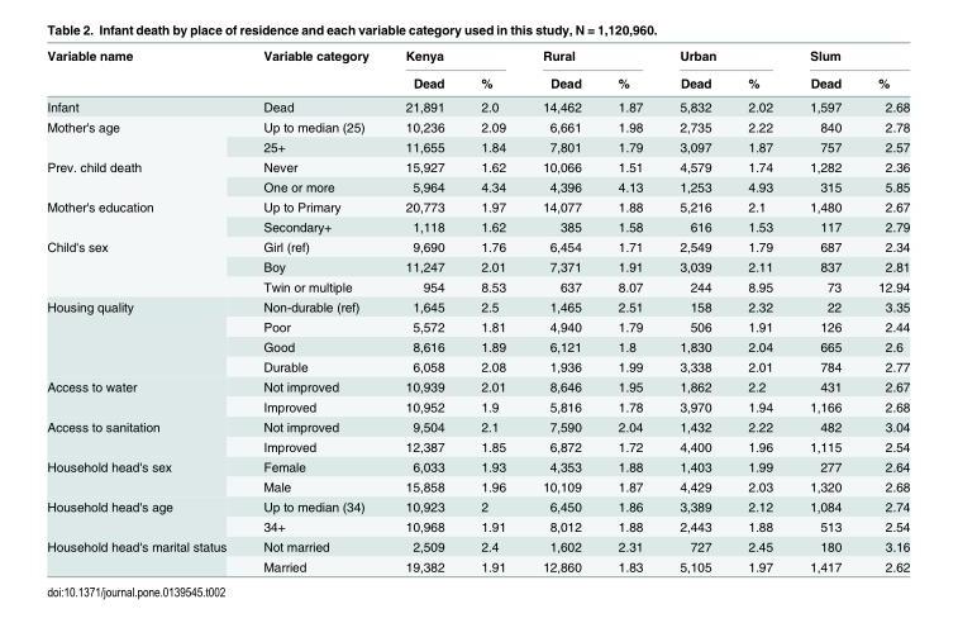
<table><thead><tr><td rowspan="2">Variable name</td><td rowspan="2">Variable category</td><td colspan="2">Kenya</td><td colspan="2">Rural</td><td colspan="2">Urban</td><td colspan="2">Slum</td></tr><tr><td>Dead</td><td>%</td><td>Dead</td><td>%</td><td>Dead</td><td>%</td><td>Dead</td><td>%</td></tr></thead><tbody><tr><td>Infant</td><td>Dead</td><td>21,891</td><td>2.0</td><td>14,462</td><td>1.87</td><td>5,832</td><td>2.02</td><td>1,597</td><td>2.68</td></tr><tr><td rowspan="2">Mother&#x27;s age</td><td>Up to median (25)</td><td>10,236</td><td>2.09</td><td>6,661</td><td>1.98</td><td>2,735</td><td>2.22</td><td>840</td><td>2.78</td></tr><tr><td>25+</td><td>11,655</td><td>1.84</td><td>7,801</td><td>1.79</td><td>3,097</td><td>1.87</td><td>757</td><td>2.57</td></tr><tr><td rowspan="2">Prev. child death</td><td>Never</td><td>15,927</td><td>1.62</td><td>10,066</td><td>1.51</td><td>4,579</td><td>1.74</td><td>1,282</td><td>2.36</td></tr><tr><td>One or more</td><td>5,964</td><td>4.34</td><td>4,396</td><td>4.13</td><td>1,253</td><td>4.93</td><td>315</td><td>5.85</td></tr><tr><td rowspan="2">Mother&#x27;s education</td><td>Up to Primary</td><td>20,773</td><td>1.97</td><td>14,077</td><td>1.88</td><td>5,216</td><td>2.1</td><td>1,480</td><td>2.67</td></tr><tr><td>Secondary+</td><td>1,118</td><td>1.62</td><td>385</td><td>1.58</td><td>616</td><td>1.53</td><td>117</td><td>2.79</td></tr><tr><td rowspan="3">Child&#x27;s sex</td><td>Girl (ref)</td><td>9,690</td><td>1.76</td><td>6,454</td><td>1.71</td><td>2,549</td><td>1.79</td><td>687</td><td>2.34</td></tr><tr><td>Boy</td><td>11,247</td><td>2.01</td><td>7,371</td><td>1.91</td><td>3,039</td><td>2.11</td><td>837</td><td>2.81</td></tr><tr><td>Twin or multiple</td><td>954</td><td>8.53</td><td>637</td><td>8.07</td><td>244</td><td>8.95</td><td>73</td><td>12.94</td></tr><tr><td rowspan="4">Housing quality</td><td>Non-durable (ref)</td><td>1,645</td><td>2.5</td><td>1,465</td><td>2.51</td><td>158</td><td>2.32</td><td>22</td><td>3.35</td></tr><tr><td>Poor</td><td>5,572</td><td>1.81</td><td>4,940</td><td>1.79</td><td>506</td><td>1.91</td><td>126</td><td>2.44</td></tr><tr><td>Good</td><td>8,616</td><td>1.89</td><td>6,121</td><td>1.8</td><td>1,830</td><td>2.04</td><td>665</td><td>2.6</td></tr><tr><td>Durable</td><td>6,058</td><td>2.08</td><td>1,936</td><td>1.99</td><td>3,338</td><td>2.01</td><td>784</td><td>2.77</td></tr><tr><td rowspan="2">Access to water</td><td>Not improved</td><td>10,939</td><td>2.01</td><td>8,646</td><td>1.95</td><td>1,862</td><td>2.2</td><td>431</td><td>2.67</td></tr><tr><td>Improved</td><td>10,952</td><td>1.9</td><td>5,816</td><td>1.78</td><td>3,970</td><td>1.94</td><td>1,166</td><td>2.68</td></tr><tr><td rowspan="2">Access to sanitation</td><td>Not improved</td><td>9,504</td><td>2.1</td><td>7,590</td><td>2.04</td><td>1,432</td><td>2.22</td><td>482</td><td>3.04</td></tr><tr><td>Improved</td><td>12,387</td><td>1.85</td><td>6,872</td><td>1.72</td><td>4,400</td><td>1.96</td><td>1,115</td><td>2.54</td></tr><tr><td rowspan="2">Household head&#x27;s sex</td><td>Female</td><td>6,033</td><td>1.93</td><td>4,353</td><td>1.88</td><td>1,403</td><td>1.99</td><td>277</td><td>2.64</td></tr><tr><td>Male</td><td>15,858</td><td>1.96</td><td>10,109</td><td>1.87</td><td>4,429</td><td>2.03</td><td>1,320</td><td>2.68</td></tr><tr><td rowspan="2">Household head&#x27;s age</td><td>Up to median (34)</td><td>10,923</td><td>2</td><td>6,450</td><td>1.86</td><td>3,389</td><td>2.12</td><td>1,084</td><td>2.74</td></tr><tr><td>34+</td><td>10,968</td><td>1.91</td><td>8,012</td><td>1.88</td><td>2,443</td><td>1.88</td><td>513</td><td>2.54</td></tr><tr><td rowspan="2">Household head&#x27;s marital status</td><td>Not married</td><td>2,509</td><td>2.4</td><td>1,602</td><td>2.31</td><td>727</td><td>2.45</td><td>180</td><td>3.16</td></tr><tr><td>Married</td><td>19,382</td><td>1.91</td><td>12,860</td><td>1.83</td><td>5,105</td><td>1.97</td><td>1,417</td><td>2.62</td></tr></tbody></table>